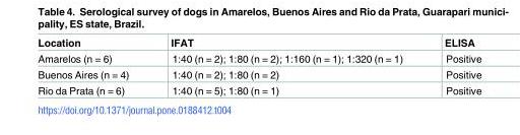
<table><thead><tr><td>Location</td><td>IFAT</td><td>ELISA</td></tr></thead><tbody><tr><td>Amarelos (n = 6)</td><td>1:40 (n = 2); 1:80 (n = 2); 1:160 (n = 1); 1:320 (n = 1)</td><td>Positive</td></tr><tr><td>Buenos Aires (n = 4)</td><td>1:40 (n = 2); 1:80 (n = 2)</td><td>Positive</td></tr><tr><td>Rio da Prata (n = 6)</td><td>1:40 (n = 5); 1:80 (n = 1)</td><td>Positive</td></tr></tbody></table>